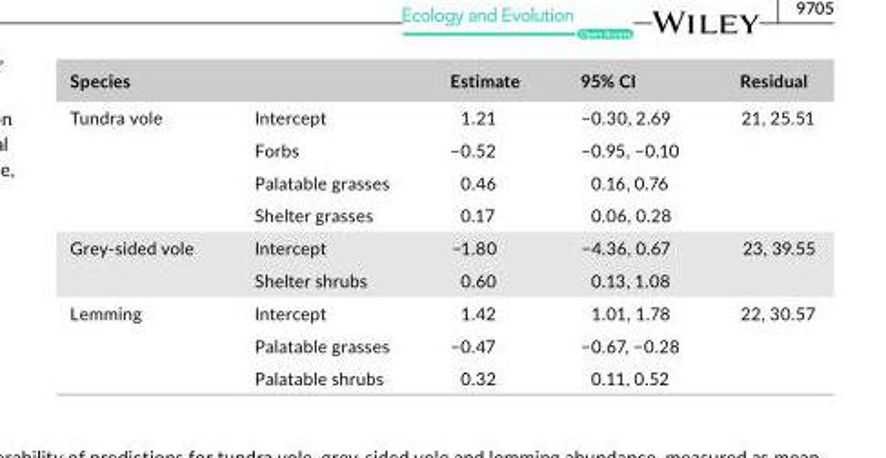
<table><thead><tr><td>Species</td><td></td><td>Estimate</td><td>95% CI</td><td>Residual</td></tr></thead><tbody><tr><td rowspan="4">Tundra vole</td><td>Intercept</td><td>1.21</td><td>−0.30, 2.69</td><td rowspan="4">21, 25.51</td></tr><tr><td>Forbs</td><td>−0.52</td><td>−0.95, −0.10</td></tr><tr><td>Palatable grasses</td><td>0.46</td><td>0.16, 0.76</td></tr><tr><td>Shelter grasses</td><td>0.17</td><td>0.06, 0.28</td></tr><tr><td rowspan="2">Grey- sided vole</td><td>Intercept</td><td>−1.80</td><td>−4.36, 0.67</td><td rowspan="2">23, 39.55</td></tr><tr><td>Shelter shrubs</td><td>0.60</td><td>0.13, 1.08</td></tr><tr><td rowspan="3">Lemming</td><td>Intercept</td><td>1.42</td><td>1.01, 1.78</td><td rowspan="3">22, 30.57</td></tr><tr><td>Palatable grasses</td><td>−0.47</td><td>−0.67, −0.28</td></tr><tr><td>Palatable shrubs</td><td>0.32</td><td>0.11, 0.52</td></tr></tbody></table>